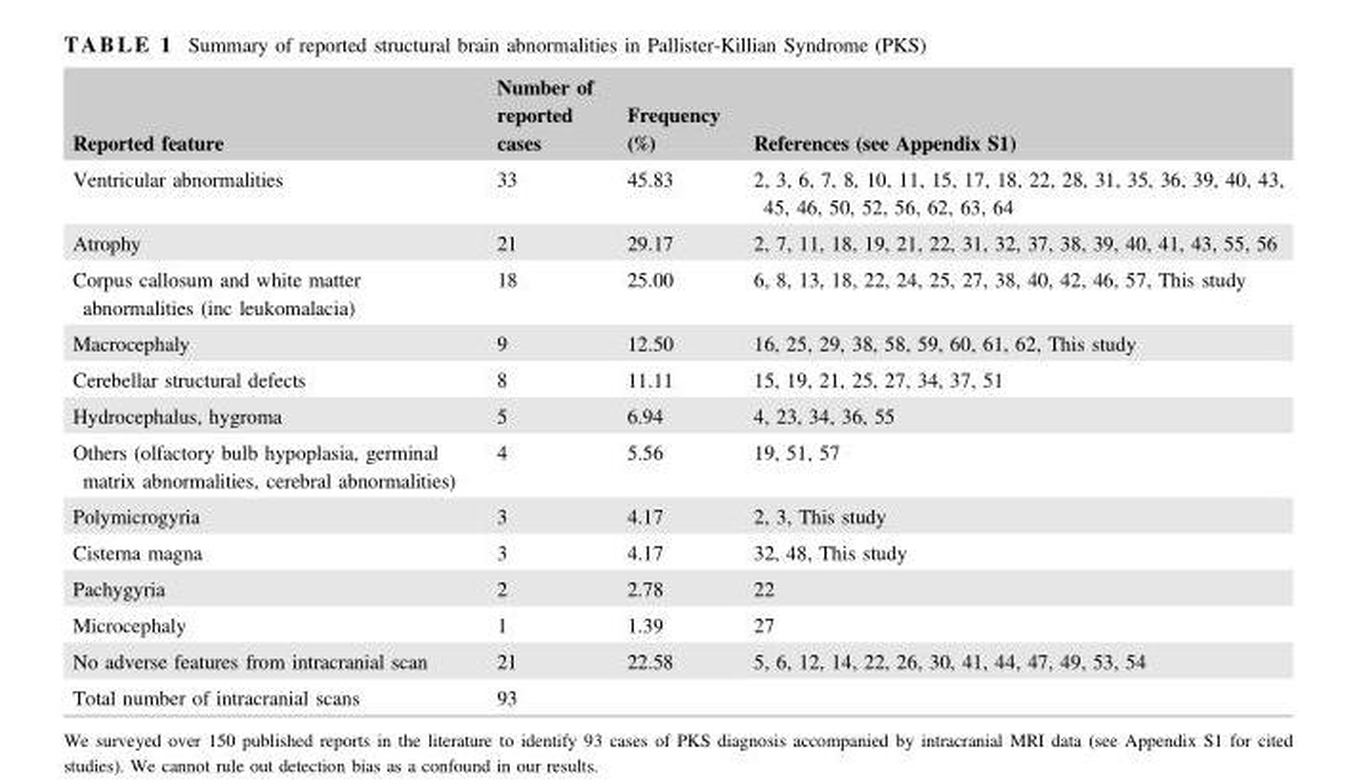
<table><thead><tr><td>Reported feature</td><td>Number of reported cases</td><td>Frequency (%)</td><td>References (see Appendix S1)</td></tr></thead><tbody><tr><td>Ventricular abnormalities</td><td>33</td><td>45.83</td><td>2, 3, 6, 7, 8, 10, 11, 15, 17, 18, 22, 28, 31, 35, 36, 39, 40, 43, 45, 46, 50, 52, 56, 62, 63, 64</td></tr><tr><td>Atrophy</td><td>21</td><td>29.17</td><td>2, 7, 11, 18, 19, 21, 22, 31, 32, 37, 38, 39, 40, 41, 43, 55, 56</td></tr><tr><td>Corpus callosum and white matter abnormalities (inc leukomalacia)</td><td>18</td><td>25.00</td><td>6, 8, 13, 18, 22, 24, 25, 27, 38, 40, 42, 46, 57, This study</td></tr><tr><td>Macrocephaly</td><td>9</td><td>12.50</td><td>16, 25, 29, 38, 58, 59, 60, 61, 62, This study</td></tr><tr><td>Cerebellar structural defects</td><td>8</td><td>11.11</td><td>15, 19, 21, 25, 27, 34, 37, 51</td></tr><tr><td>Hydrocephalus, hygroma</td><td>5</td><td>6.94</td><td>4, 23, 34, 36, 55</td></tr><tr><td>Others (olfactory bulb hypoplasia, germinal matrix abnormalities, cerebral abnormalities)</td><td>4</td><td>5.56</td><td>19, 51, 57</td></tr><tr><td>Polymicrogyria</td><td>3</td><td>4.17</td><td>2, 3, This study</td></tr><tr><td>Cisterna magna</td><td>3</td><td>4.17</td><td>32, 48, This study</td></tr><tr><td>Pachygyria</td><td>2</td><td>2.78</td><td>22</td></tr><tr><td>Microcephaly</td><td>1</td><td>1.39</td><td>27</td></tr><tr><td>No adverse features from intracranial scan</td><td>21</td><td>22.58</td><td>5, 6, 12, 14, 22, 26, 30, 41, 44, 47, 49, 53, 54</td></tr><tr><td>Total number of intracranial scans</td><td>93</td><td></td><td></td></tr></tbody></table>